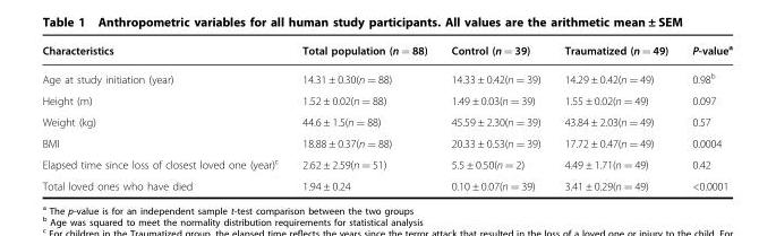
<table><thead><tr><td>Characteristics</td><td>Total population (n = 88)</td><td>Control (n = 39)</td><td>Traumatized (n = 49)</td><td>P-value<sup>a</sup></td></tr></thead><tbody><tr><td>Age at study initiation (year)</td><td>14.31 ± 0.30(n = 88)</td><td>14.33 ± 0.42(n = 39)</td><td>14.29 ± 0.42(n = 49)</td><td>0.98<sup>b</sup></td></tr><tr><td>Height (m)</td><td>1.52 ± 0.02(n = 88)</td><td>1.49 ± 0.03(n = 39)</td><td>1.55 ± 0.02(n = 49)</td><td>0.097</td></tr><tr><td>Weight (kg)</td><td>44.6 ± 1.5(n = 88)</td><td>45.59 ± 2.30(n = 39)</td><td>43.84 ± 2.03(n = 49)</td><td>0.57</td></tr><tr><td>BMI</td><td>18.88 ± 0.37(n = 88)</td><td>20.33 ± 0.53(n = 39)</td><td>17.72 ± 0.47(n = 49)</td><td>0.0004</td></tr><tr><td>Elapsed time since loss of closest loved one (year)<sup>c</sup></td><td>2.62 ± 2.59(n = 51)</td><td>5.5 ± 0.50(n = 2)</td><td>4.49 ± 1.71(n = 49)</td><td>0.42</td></tr><tr><td>Total loved ones who have died</td><td>1.94 ± 0.24</td><td>0.10 ± 0.07(n = 39)</td><td>3.41 ± 0.29(n = 49)</td><td>&lt;0.0001</td></tr></tbody></table>